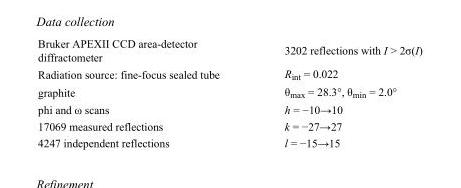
<table><tbody><tr><td>Bruker APEXII CCD area-detector diffractometer</td><td>3202 reflections with I &gt; 2σ(I)</td></tr><tr><td>Radiation source: fine-focus sealed tube</td><td>R<sub>int</sub> = 0.022</td></tr><tr><td>graphite</td><td>θ<sub>max</sub> = 28.3°, θ<sub>min</sub> = 2.0°</td></tr><tr><td>phi and ω scans</td><td>h = −10→10</td></tr><tr><td>17069 measured reflections</td><td>k = −27→27</td></tr><tr><td>4247 independent reflections</td><td>l = −15→15</td></tr></tbody></table>